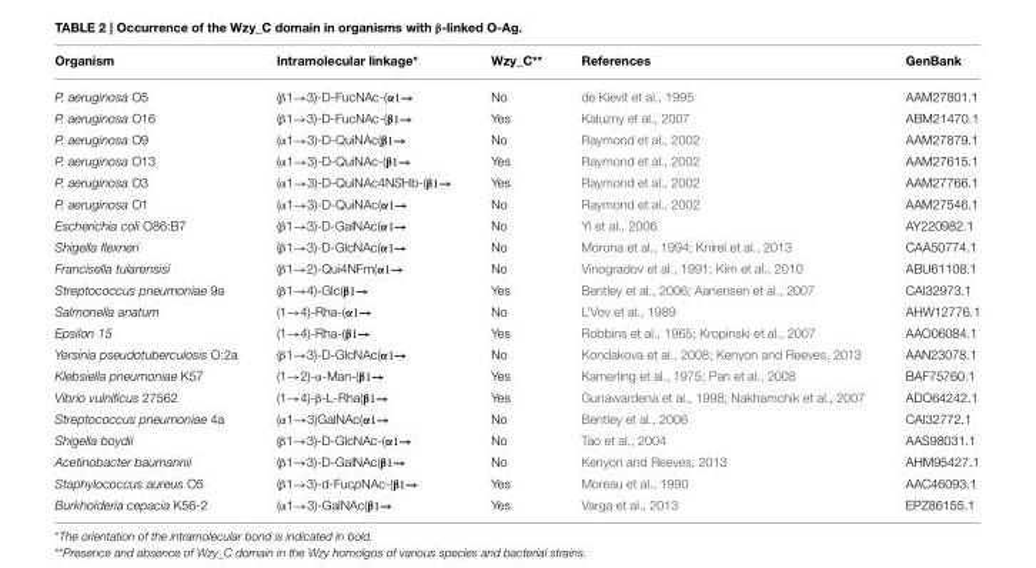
<table><thead><tr><td>Organism</td><td>Intramolecular linkage*</td><td>Wzy_C**</td><td>References</td><td>GenBank</td></tr></thead><tbody><tr><td>P. aeruginosa O5</td><td>(β1→3)-D-FucNAc-(α1→</td><td>No</td><td>de Kievit et al., 1995</td><td>AAM27801.1</td></tr><tr><td>P. aeruginosa O16</td><td>(β1→3)-D-FucNAc-(β1→</td><td>Yes</td><td>Kaluzny et al., 2007</td><td>ABM21470.1</td></tr><tr><td>P. aeruginosa O9</td><td>(α1→3)-D-QuiNAc(β1→</td><td>No</td><td>Raymond et al., 2002</td><td>AAM27879.1</td></tr><tr><td>P. aeruginosa O13</td><td>(α1→3)-D-QuiNAc-(β1→</td><td>Yes</td><td>Raymond et al., 2002</td><td>AAM27615.1</td></tr><tr><td>P. aeruginosa O3</td><td>(α1→3)-D-QuiNAc4NSHb-(β1→</td><td>Yes</td><td>Raymond et al., 2002</td><td>AAM27766.1</td></tr><tr><td>P. aeruginosa O1</td><td>(α1→3)-D-QuiNAc(α1→</td><td>No</td><td>Raymond et al., 2002</td><td>AAM27546.1</td></tr><tr><td>Escherichia coli O86:B7</td><td>(β1→3)-D-GalNAc(α1→</td><td>No</td><td>Yi et al., 2006</td><td>AY220982.1</td></tr><tr><td>Shigella flexneri</td><td>(β1→3)-D-GlcNAc(α1→</td><td>No</td><td>Morona et al., 1994; Knirel et al., 2013</td><td>CAA50774.1</td></tr><tr><td>Francisella tularensisi</td><td>(β1→2)-Qui4NFm(α1→</td><td>No</td><td>Vinogradov et al., 1991; Kim et al., 2010</td><td>ABU61108.1</td></tr><tr><td>Streptococcus pneumoniae 9a</td><td>(β1→4)-Glc(β1→</td><td>Yes</td><td>Bentley et al., 2006; Aanensen et al., 2007</td><td>CAI32973.1</td></tr><tr><td>Salmonella anatum</td><td>(1→4)-Rha-(α1→</td><td>No</td><td>L’Vov et al., 1989</td><td>AHW12776.1</td></tr><tr><td>Epsilon 15</td><td>(1→4)-Rha-(β1→</td><td>Yes</td><td>Robbins et al., 1965; Kropinski et al., 2007</td><td>AAO06084.1</td></tr><tr><td>Yersinia pseudotuberculosis O:2a</td><td>(β1→3)-D-GlcNAc(α1→</td><td>No</td><td>Kondakova et al., 2008; Kenyon and Reeves, 2013</td><td>AAN23078.1</td></tr><tr><td>Klebsiella pneumoniae K57</td><td>(1→2)-α-Man-(β1→</td><td>Yes</td><td>Kamerling et al., 1975; Pan et al., 2008</td><td>BAF75760.1</td></tr><tr><td>Vibrio vulnificus 27562</td><td>(1→4)-β-L-Rha(β1→</td><td>Yes</td><td>Gunawardena et al., 1998; Nakhamchik et al., 2007</td><td>ADO64242.1</td></tr><tr><td>Streptococcus pneumoniae 4a</td><td>(α1→3)GalNAc(α1→</td><td>No</td><td>Bentley et al., 2006</td><td>CAI32772.1</td></tr><tr><td>Shigella boydii</td><td>(β1→3)-D-GlcNAc-(α1→</td><td>No</td><td>Tao et al., 2004</td><td>AAS98031.1</td></tr><tr><td>Acetinobacter baumannii</td><td>(β1→3)-D-GalNAc(β1→</td><td>No</td><td>Kenyon and Reeves, 2013</td><td>AHM95427.1</td></tr><tr><td>Staphylococcus aureus O5</td><td>(β1→3)-d-FucpNAc-(β1→</td><td>Yes</td><td>Moreau et al., 1990</td><td>AAC46093.1</td></tr><tr><td>Burkholderia cepacia K56-2</td><td>(α1→3)-GalNAc(β1→</td><td>Yes</td><td>Varga et al., 2013</td><td>EPZ86155.1</td></tr></tbody></table>